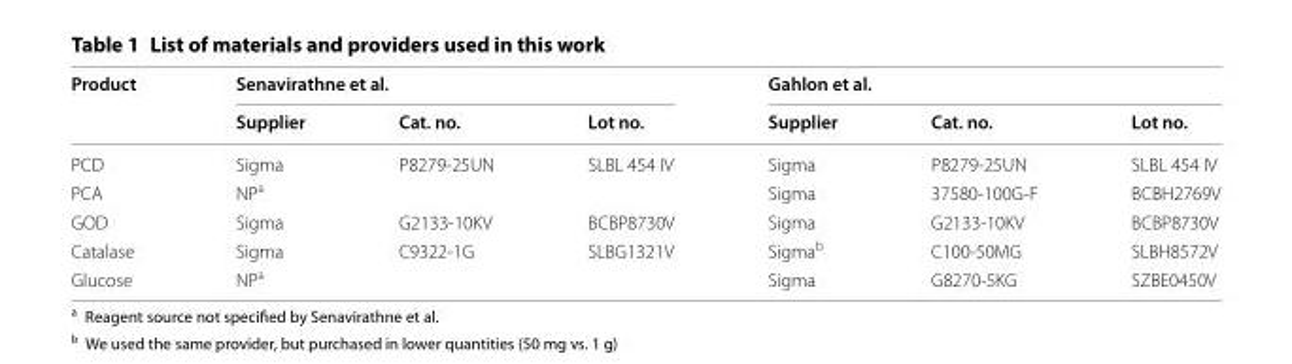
<table><thead><tr><td rowspan="2">Product</td><td colspan="3">Senavirathne et al.</td><td colspan="3">Gahlon et al.</td></tr><tr><td>Supplier</td><td>Cat. no.</td><td>Lot no.</td><td>Supplier</td><td>Cat. no.</td><td>Lot no.</td></tr></thead><tbody><tr><td>PCD</td><td>Sigma</td><td>P8279‑25UN</td><td>SLBL 454 IV</td><td>Sigma</td><td>P8279‑25UN</td><td>SLBL 454 IV</td></tr><tr><td>PCA</td><td>NP<sup>a</sup></td><td></td><td></td><td>Sigma</td><td>37580‑100G‑F</td><td>BCBH2769V</td></tr><tr><td>GOD</td><td>Sigma</td><td>G2133‑10KV</td><td>BCBP8730V</td><td>Sigma</td><td>G2133‑10KV</td><td>BCBP8730V</td></tr><tr><td>Catalase</td><td>Sigma</td><td>C9322‑1G</td><td>SLBG1321V</td><td>Sigma<sup>b</sup></td><td>C100‑50MG</td><td>SLBH8572V</td></tr><tr><td>Glucose</td><td>NP<sup>a</sup></td><td></td><td></td><td>Sigma</td><td>G8270‑5KG</td><td>SZBE0450V</td></tr></tbody></table>